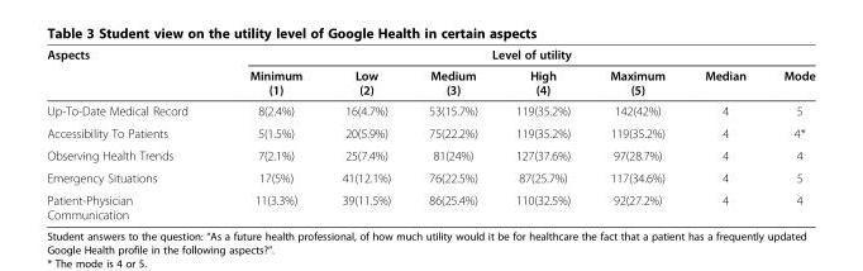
<table><thead><tr><td rowspan="2">Aspects</td><td colspan="7">Level of utility</td></tr><tr><td>Minimum (1)</td><td>Low (2)</td><td>Medium (3)</td><td>High (4)</td><td>Maximum (5)</td><td>Median</td><td>Mode</td></tr></thead><tbody><tr><td>Up-To-Date Medical Record</td><td>8(2.4%)</td><td>16(4.7%)</td><td>53(15.7%)</td><td>119(35.2%)</td><td>142(42%)</td><td>4</td><td>5</td></tr><tr><td>Accessibility To Patients</td><td>5(1.5%)</td><td>20(5.9%)</td><td>75(22.2%)</td><td>119(35.2%)</td><td>119(35.2%)</td><td>4</td><td>4*</td></tr><tr><td>Observing Health Trends</td><td>7(2.1%)</td><td>25(7.4%)</td><td>81(24%)</td><td>127(37.6%)</td><td>97(28.7%)</td><td>4</td><td>4</td></tr><tr><td>Emergency Situations</td><td>17(5%)</td><td>41(12.1%)</td><td>76(22.5%)</td><td>87(25.7%)</td><td>117(34.6%)</td><td>4</td><td>5</td></tr><tr><td>Patient-Physician Communication</td><td>11(3.3%)</td><td>39(11.5%)</td><td>86(25.4%)</td><td>110(32.5%)</td><td>92(27.2%)</td><td>4</td><td>4</td></tr></tbody></table>